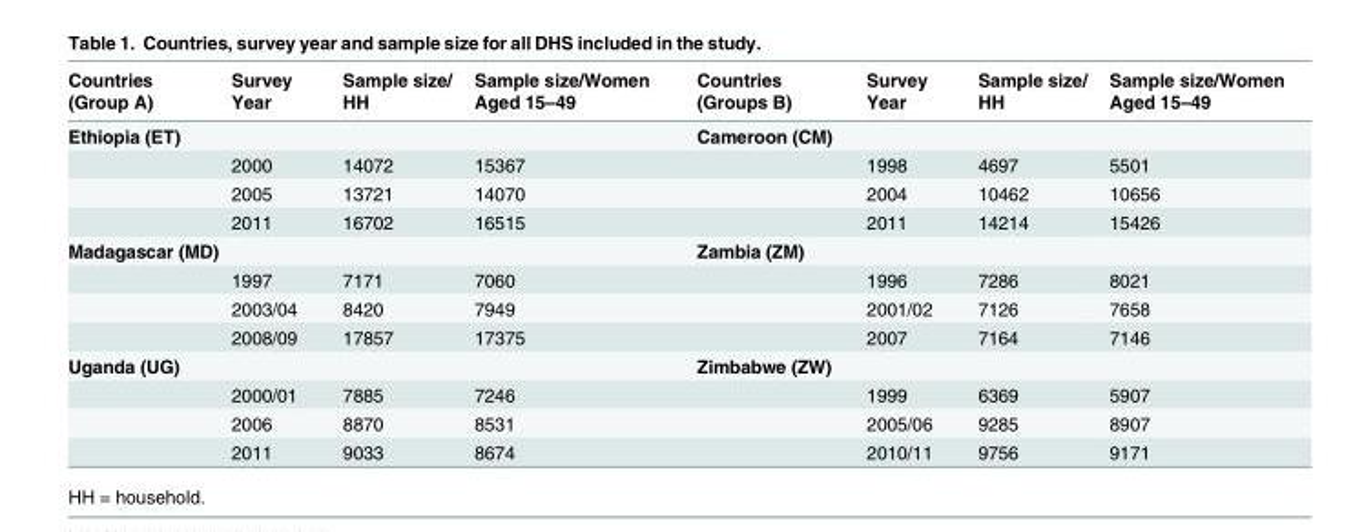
<table><thead><tr><td>Countries (Group A)</td><td>Survey Year</td><td>Sample size/ HH</td><td>Sample size/Women Aged 15–49</td><td>Countries (Groups B)</td><td>Survey Year</td><td>Sample size/ HH</td><td>Sample size/Women Aged 15–49</td></tr></thead><tbody><tr><td colspan="4">Ethiopia (ET)</td><td colspan="4">Cameroon (CM)</td></tr><tr><td></td><td>2000</td><td>14072</td><td>15367</td><td></td><td>1998</td><td>4697</td><td>5501</td></tr><tr><td></td><td>2005</td><td>13721</td><td>14070</td><td></td><td>2004</td><td>10462</td><td>10656</td></tr><tr><td></td><td>2011</td><td>16702</td><td>16515</td><td></td><td>2011</td><td>14214</td><td>15426</td></tr><tr><td colspan="4">Madagascar (MD)</td><td colspan="4">Zambia (ZM)</td></tr><tr><td></td><td>1997</td><td>7171</td><td>7060</td><td></td><td>1996</td><td>7286</td><td>8021</td></tr><tr><td></td><td>2003/04</td><td>8420</td><td>7949</td><td></td><td>2001/02</td><td>7126</td><td>7658</td></tr><tr><td></td><td>2008/09</td><td>17857</td><td>17375</td><td></td><td>2007</td><td>7164</td><td>7146</td></tr><tr><td colspan="4">Uganda (UG)</td><td colspan="4">Zimbabwe (ZW)</td></tr><tr><td></td><td>2000/01</td><td>7885</td><td>7246</td><td></td><td>1999</td><td>6369</td><td>5907</td></tr><tr><td></td><td>2006</td><td>8870</td><td>8531</td><td></td><td>2005/06</td><td>9285</td><td>8907</td></tr><tr><td></td><td>2011</td><td>9033</td><td>8674</td><td></td><td>2010/11</td><td>9756</td><td>9171</td></tr></tbody></table>